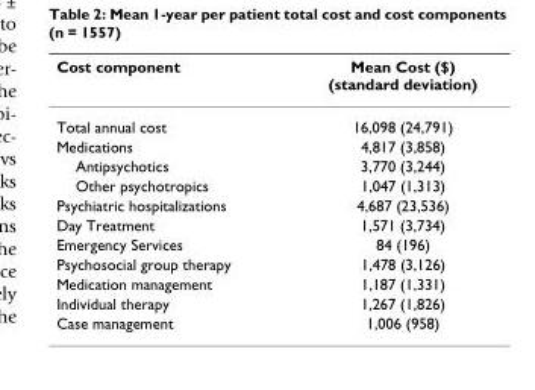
<table><thead><tr><td>Cost component</td><td>Mean Cost ($) (standard deviation)</td></tr></thead><tbody><tr><td>Total annual cost</td><td>16,098 (24,791)</td></tr><tr><td>Medications</td><td>4,817 (3,858)</td></tr><tr><td>Antipsychotics</td><td>3,770 (3,244)</td></tr><tr><td>Other psychotropics</td><td>1,047 (1,313)</td></tr><tr><td>Psychiatric hospitalizations</td><td>4,687 (23,536)</td></tr><tr><td>Day Treatment</td><td>1,571 (3,734)</td></tr><tr><td>Emergency Services</td><td>84 (196)</td></tr><tr><td>Psychosocial group therapy</td><td>1,478 (3,126)</td></tr><tr><td>Medication management</td><td>1,187 (1,331)</td></tr><tr><td>Individual therapy</td><td>1,267 (1,826)</td></tr><tr><td>Case management</td><td>1,006 (958)</td></tr></tbody></table>